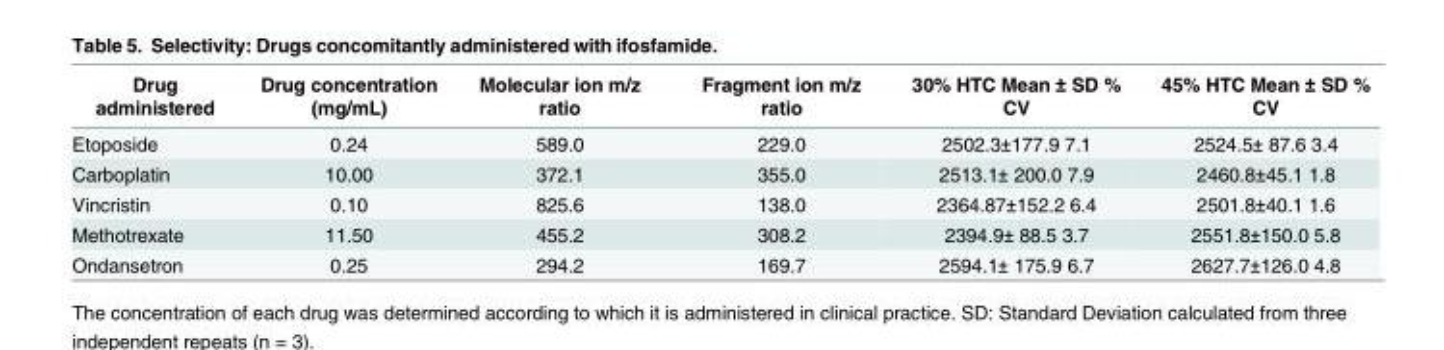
<table><thead><tr><td>Drug administered</td><td>Drug concentration (mg/mL)</td><td>Molecular ion m/z ratio</td><td>Fragment ion m/z ratio</td><td>30% HTC Mean ± SD % CV</td><td>45% HTC Mean ± SD % CV</td></tr></thead><tbody><tr><td>Etoposide</td><td>0.24</td><td>589.0</td><td>229.0</td><td>2502.3±177.9 7.1</td><td>2524.5± 87.6 3.4</td></tr><tr><td>Carboplatin</td><td>10.00</td><td>372.1</td><td>355.0</td><td>2513.1± 200.0 7.9</td><td>2460.8±45.1 1.8</td></tr><tr><td>Vincristin</td><td>0.10</td><td>825.6</td><td>138.0</td><td>2364.87±152.2 6.4</td><td>2501.8±40.1 1.6</td></tr><tr><td>Methotrexate</td><td>11.50</td><td>455.2</td><td>308.2</td><td>2394.9± 88.5 3.7</td><td>2551.8±150.0 5.8</td></tr><tr><td>Ondansetron</td><td>0.25</td><td>294.2</td><td>169.7</td><td>2594.1± 175.9 6.7</td><td>2627.7±126.0 4.8</td></tr></tbody></table>